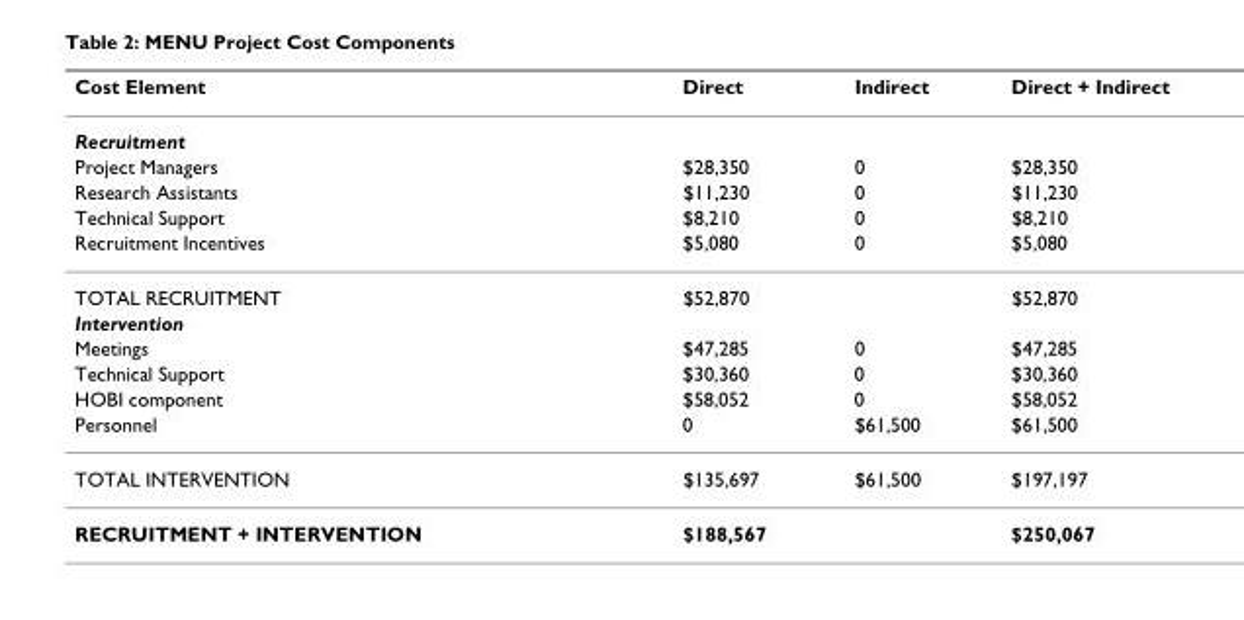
<table><thead><tr><td>Cost Element</td><td>Direct</td><td>Indirect</td><td>Direct + Indirect</td></tr></thead><tbody><tr><td colspan="4">Recruitment</td></tr><tr><td>Project Managers</td><td>$28,350</td><td>0</td><td>$28,350</td></tr><tr><td>Research Assistants</td><td>$11,230</td><td>0</td><td>$11,230</td></tr><tr><td>Technical Support</td><td>$8,210</td><td>0</td><td>$8,210</td></tr><tr><td>Recruitment Incentives</td><td>$5,080</td><td>0</td><td>$5,080</td></tr><tr><td>TOTAL RECRUITMENT</td><td>$52,870</td><td></td><td>$52,870</td></tr><tr><td colspan="4">Intervention</td></tr><tr><td>Meetings</td><td>$47,285</td><td>0</td><td>$47,285</td></tr><tr><td>Technical Support</td><td>$30,360</td><td>0</td><td>$30,360</td></tr><tr><td>HOBI component</td><td>$58,052</td><td>0</td><td>$58,052</td></tr><tr><td>Personnel</td><td>0</td><td>$61,500</td><td>$61,500</td></tr><tr><td>TOTAL INTERVENTION</td><td>$135,697</td><td>$61,500</td><td>$197,197</td></tr><tr><td>RECRUITMENT + INTERVENTION</td><td>$188,567</td><td></td><td>$250,067</td></tr></tbody></table>